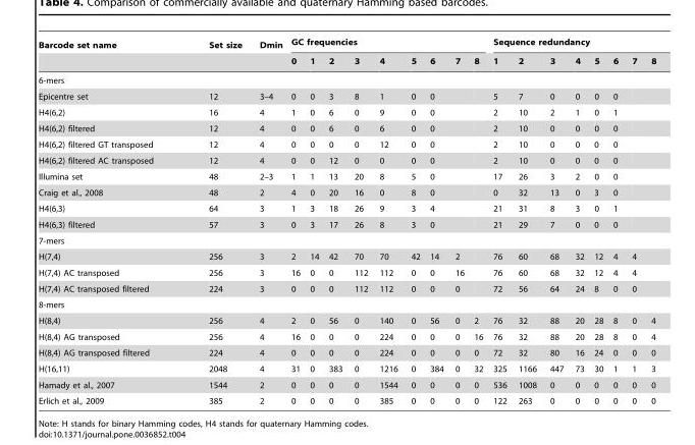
<table><thead><tr><td rowspan="2">Barcode set name</td><td rowspan="2">Set size</td><td rowspan="2">Dmin</td><td colspan="9">GC frequencies</td><td colspan="8">Sequence redundancy</td></tr><tr><td>0</td><td>1</td><td>2</td><td>3</td><td>4</td><td>5</td><td>6</td><td>7</td><td>8</td><td>1</td><td>2</td><td>3</td><td>4</td><td>5</td><td>6</td><td>7</td><td>8</td></tr></thead><tbody><tr><td colspan="20">6-mers</td></tr><tr><td>Epicentre set</td><td>12</td><td>3–4</td><td>0</td><td>0</td><td>3</td><td>8</td><td>1</td><td>0</td><td>0</td><td></td><td></td><td>5</td><td>7</td><td>0</td><td>0</td><td>0</td><td>0</td><td></td><td></td></tr><tr><td>H4(6,2)</td><td>16</td><td>4</td><td>1</td><td>0</td><td>6</td><td>0</td><td>9</td><td>0</td><td>0</td><td></td><td></td><td>2</td><td>10</td><td>2</td><td>1</td><td>0</td><td>1</td><td></td><td></td></tr><tr><td>H4(6,2) filtered</td><td>12</td><td>4</td><td>0</td><td>0</td><td>6</td><td>0</td><td>6</td><td>0</td><td>0</td><td></td><td></td><td>2</td><td>10</td><td>0</td><td>0</td><td>0</td><td>0</td><td></td><td></td></tr><tr><td>H4(6,2) filtered GT transposed</td><td>12</td><td>4</td><td>0</td><td>0</td><td>0</td><td>0</td><td>12</td><td>0</td><td>0</td><td></td><td></td><td>2</td><td>10</td><td>0</td><td>0</td><td>0</td><td>0</td><td></td><td></td></tr><tr><td>H4(6,2) filtered AC transposed</td><td>12</td><td>4</td><td>0</td><td>0</td><td>12</td><td>0</td><td>0</td><td>0</td><td>0</td><td></td><td></td><td>2</td><td>10</td><td>0</td><td>0</td><td>0</td><td>0</td><td></td><td></td></tr><tr><td>Illumina set</td><td>48</td><td>2–3</td><td>1</td><td>1</td><td>13</td><td>20</td><td>8</td><td>5</td><td>0</td><td></td><td></td><td>17</td><td>26</td><td>3</td><td>2</td><td>0</td><td>0</td><td></td><td></td></tr><tr><td>Craig et al., 2008</td><td>48</td><td>2</td><td>4</td><td>0</td><td>20</td><td>16</td><td>0</td><td>8</td><td>0</td><td></td><td></td><td>0</td><td>32</td><td>13</td><td>0</td><td>3</td><td>0</td><td></td><td></td></tr><tr><td>H4(6,3)</td><td>64</td><td>3</td><td>1</td><td>3</td><td>18</td><td>26</td><td>9</td><td>3</td><td>4</td><td></td><td></td><td>21</td><td>31</td><td>8</td><td>3</td><td>0</td><td>1</td><td></td><td></td></tr><tr><td>H4(6,3) filtered</td><td>57</td><td>3</td><td>0</td><td>3</td><td>17</td><td>26</td><td>8</td><td>3</td><td>0</td><td></td><td></td><td>21</td><td>29</td><td>7</td><td>0</td><td>0</td><td>0</td><td></td><td></td></tr><tr><td colspan="20">7-mers</td></tr><tr><td>H(7,4)</td><td>256</td><td>3</td><td>2</td><td>14</td><td>42</td><td>70</td><td>70</td><td>42</td><td>14</td><td>2</td><td></td><td>76</td><td>60</td><td>68</td><td>32</td><td>12</td><td>4</td><td>4</td><td></td></tr><tr><td>H(7,4) AC transposed</td><td>256</td><td>3</td><td>16</td><td>0</td><td>0</td><td>112</td><td>112</td><td>0</td><td>0</td><td>16</td><td></td><td>76</td><td>60</td><td>68</td><td>32</td><td>12</td><td>4</td><td>4</td><td></td></tr><tr><td>H(7,4) AC transposed filtered</td><td>224</td><td>3</td><td>0</td><td>0</td><td>0</td><td>112</td><td>112</td><td>0</td><td>0</td><td>0</td><td></td><td>72</td><td>56</td><td>64</td><td>24</td><td>8</td><td>0</td><td>0</td><td></td></tr><tr><td colspan="20">8-mers</td></tr><tr><td>H(8,4)</td><td>256</td><td>4</td><td>2</td><td>0</td><td>56</td><td>0</td><td>140</td><td>0</td><td>56</td><td>0</td><td>2</td><td>76</td><td>32</td><td>88</td><td>20</td><td>28</td><td>8</td><td>0</td><td>4</td></tr><tr><td>H(8,4) AG transposed</td><td>256</td><td>4</td><td>16</td><td>0</td><td>0</td><td>0</td><td>224</td><td>0</td><td>0</td><td>0</td><td>16</td><td>76</td><td>32</td><td>88</td><td>20</td><td>28</td><td>8</td><td>0</td><td>4</td></tr><tr><td>H(8,4) AG transposed filtered</td><td>224</td><td>4</td><td>0</td><td>0</td><td>0</td><td>0</td><td>224</td><td>0</td><td>0</td><td>0</td><td>0</td><td>72</td><td>32</td><td>80</td><td>16</td><td>24</td><td>0</td><td>0</td><td>0</td></tr><tr><td>H(16,11)</td><td>2048</td><td>4</td><td>31</td><td>0</td><td>383</td><td>0</td><td>1216</td><td>0</td><td>384</td><td>0</td><td>32</td><td>325</td><td>1166</td><td>447</td><td>73</td><td>30</td><td>1</td><td>1</td><td>3</td></tr><tr><td>Hamady et al., 2007</td><td>1544</td><td>2</td><td>0</td><td>0</td><td>0</td><td>0</td><td>1544</td><td>0</td><td>0</td><td>0</td><td>0</td><td>536</td><td>1008</td><td>0</td><td>0</td><td>0</td><td>0</td><td>0</td><td>0</td></tr><tr><td>Erlich et al., 2009</td><td>385</td><td>2</td><td>0</td><td>0</td><td>0</td><td>0</td><td>385</td><td>0</td><td>0</td><td>0</td><td>0</td><td>122</td><td>263</td><td>0</td><td>0</td><td>0</td><td>0</td><td>0</td><td>0</td></tr></tbody></table>